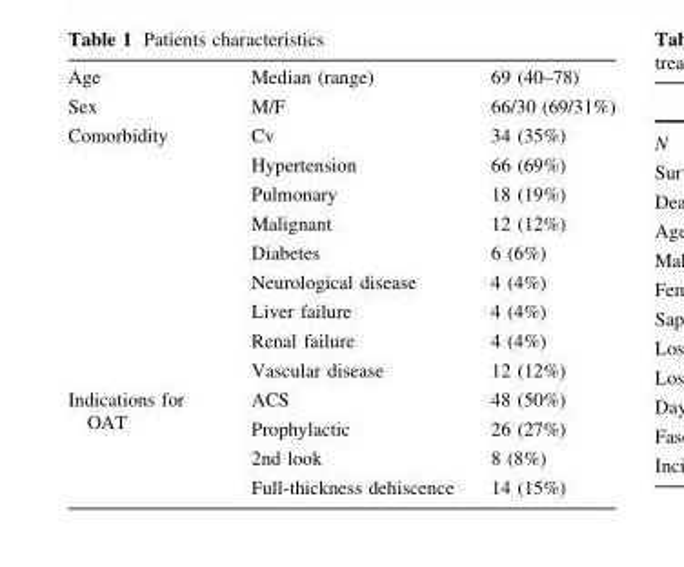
<table><tbody><tr><td>Age</td><td>Median (range)</td><td>69 (40–78)</td></tr><tr><td>Sex</td><td>M/F</td><td>66/30 (69/31%)</td></tr><tr><td rowspan="9">Comorbidity</td><td>Cv</td><td>34 (35%)</td></tr><tr><td>Hypertension</td><td>66 (69%)</td></tr><tr><td>Pulmonary</td><td>18 (19%)</td></tr><tr><td>Malignant</td><td>12 (12%)</td></tr><tr><td>Diabetes</td><td>6 (6%)</td></tr><tr><td>Neurological disease</td><td>4 (4%)</td></tr><tr><td>Liver failure</td><td>4 (4%)</td></tr><tr><td>Renal failure</td><td>4 (4%)</td></tr><tr><td>Vascular disease</td><td>12 (12%)</td></tr><tr><td rowspan="4">Indications for OAT</td><td>ACS</td><td>48 (50%)</td></tr><tr><td>Prophylactic</td><td>26 (27%)</td></tr><tr><td>2nd look</td><td>8 (8%)</td></tr><tr><td>Full-thickness dehiscence</td><td>14 (15%)</td></tr></tbody></table>